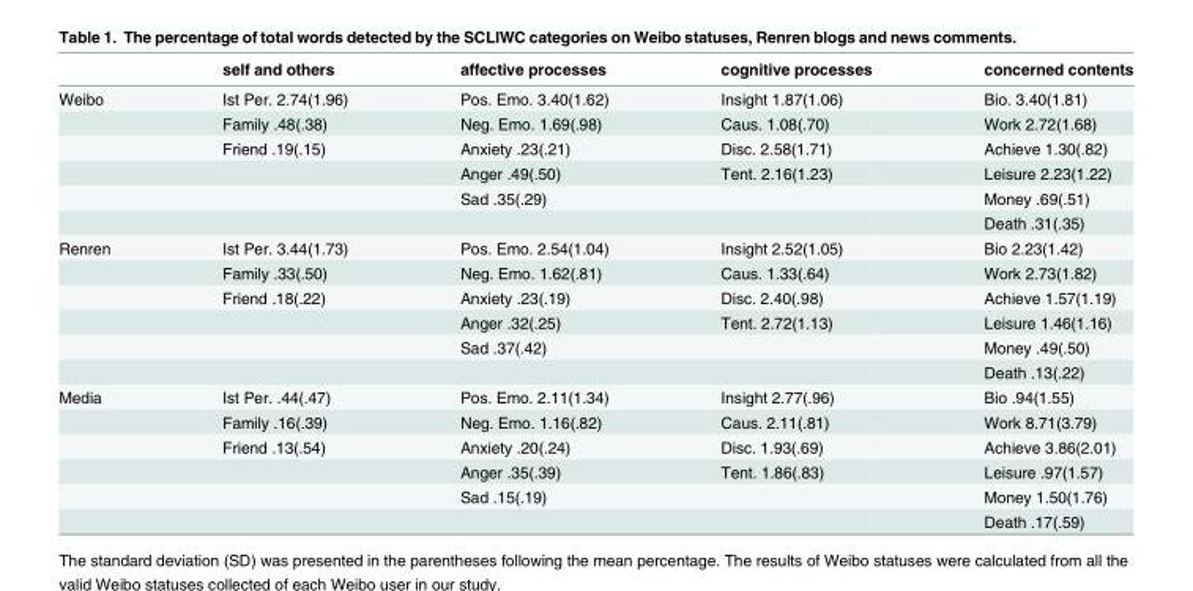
<table><thead><tr><td></td><td>self and others</td><td>affective processes</td><td>cognitive processes</td><td>concerned contents</td></tr></thead><tbody><tr><td rowspan="6">Weibo</td><td>Ist Per. 2.74(1.96)</td><td>Pos. Emo. 3.40(1.62)</td><td>Insight 1.87(1.06)</td><td>Bio. 3.40(1.81)</td></tr><tr><td>Family .48(.38)</td><td>Neg. Emo. 1.69(.98)</td><td>Caus. 1.08(.70)</td><td>Work 2.72(1.68)</td></tr><tr><td>Friend .19(.15)</td><td>Anxiety .23(.21)</td><td>Disc. 2.58(1.71)</td><td>Achieve 1.30(.82)</td></tr><tr><td></td><td>Anger .49(.50)</td><td>Tent. 2.16(1.23)</td><td>Leisure 2.23(1.22)</td></tr><tr><td></td><td>Sad .35(.29)</td><td></td><td>Money .69(.51)</td></tr><tr><td></td><td></td><td></td><td>Death .31(.35)</td></tr><tr><td rowspan="6">Renren</td><td>Ist Per. 3.44(1.73)</td><td>Pos. Emo. 2.54(1.04)</td><td>Insight 2.52(1.05)</td><td>Bio 2.23(1.42)</td></tr><tr><td>Family .33(.50)</td><td>Neg. Emo. 1.62(.81)</td><td>Caus. 1.33(.64)</td><td>Work 2.73(1.82)</td></tr><tr><td>Friend .18(.22)</td><td>Anxiety .23(.19)</td><td>Disc. 2.40(.98)</td><td>Achieve 1.57(1.19)</td></tr><tr><td></td><td>Anger .32(.25)</td><td>Tent. 2.72(1.13)</td><td>Leisure 1.46(1.16)</td></tr><tr><td></td><td>Sad .37(.42)</td><td></td><td>Money .49(.50)</td></tr><tr><td></td><td></td><td></td><td>Death .13(.22)</td></tr><tr><td rowspan="6">Media</td><td>Ist Per. .44(.47)</td><td>Pos. Emo. 2.11(1.34)</td><td>Insight 2.77(.96)</td><td>Bio .94(1.55)</td></tr><tr><td>Family .16(.39)</td><td>Neg. Emo. 1.16(.82)</td><td>Caus. 2.11(.81)</td><td>Work 8.71(3.79)</td></tr><tr><td>Friend .13(.54)</td><td>Anxiety .20(.24)</td><td>Disc. 1.93(.69)</td><td>Achieve 3.86(2.01)</td></tr><tr><td></td><td>Anger .35(.39)</td><td>Tent. 1.86(.83)</td><td>Leisure .97(1.57)</td></tr><tr><td></td><td>Sad .15(.19)</td><td></td><td>Money 1.50(1.76)</td></tr><tr><td></td><td></td><td></td><td>Death .17(.59)</td></tr></tbody></table>